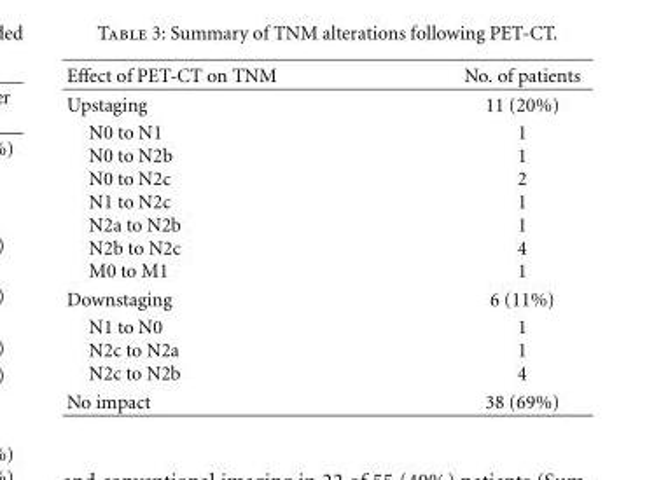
<table><thead><tr><td>Effect of PET-CT on TNM</td><td>No. of patients</td></tr></thead><tbody><tr><td>Upstaging</td><td>11 (20%)</td></tr><tr><td>N0 to N1 N0 to N2b N0 to N2c N1 to N2c N2a to N2b N2b to N2c M0 to M1</td><td>1 1 2 1 1 4 1</td></tr><tr><td>Downstaging</td><td>6 (11%)</td></tr><tr><td>N1 to N0 N2c to N2a N2c to N2b</td><td>1 1 4</td></tr><tr><td>No impact</td><td>38 (69%)</td></tr></tbody></table>